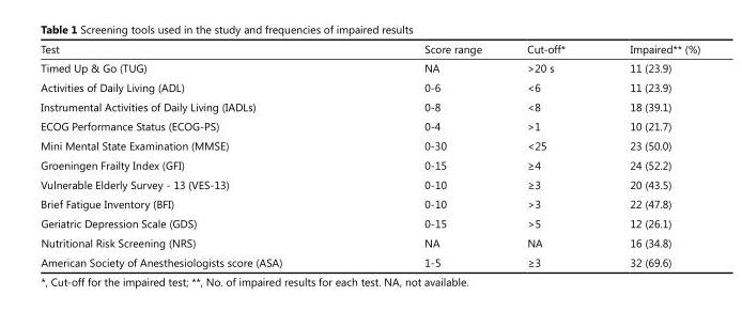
<table><thead><tr><td>Test</td><td>Score range</td><td>Cut-off*</td><td>Impaired** (%)</td></tr></thead><tbody><tr><td>Timed Up &amp; Go (TUG)</td><td>NA</td><td>&gt;20 s</td><td>11 (23.9)</td></tr><tr><td>Activities of Daily Living (ADL)</td><td>0-6</td><td>&lt;6</td><td>11 (23.9)</td></tr><tr><td>Instrumental Activities of Daily Living (IADLs)</td><td>0-8</td><td>&lt;8</td><td>18 (39.1)</td></tr><tr><td>ECOG Performance Status (ECOG-PS)</td><td>0-4</td><td>&gt;1</td><td>10 (21.7)</td></tr><tr><td>Mini Mental State Examination (MMSE)</td><td>0-30</td><td>&lt;25</td><td>23 (50.0)</td></tr><tr><td>Groeningen Frailty Index (GFI)</td><td>0-15</td><td>≥4</td><td>24 (52.2)</td></tr><tr><td>Vulnerable Elderly Survey - 13 (VES-13)</td><td>0-10</td><td>≥3</td><td>20 (43.5)</td></tr><tr><td>Brief Fatigue Inventory (BFI)</td><td>0-10</td><td>&gt;3</td><td>22 (47.8)</td></tr><tr><td>Geriatric Depression Scale (GDS)</td><td>0-15</td><td>&gt;5</td><td>12 (26.1)</td></tr><tr><td>Nutritional Risk Screening (NRS)</td><td>NA</td><td>NA</td><td>16 (34.8)</td></tr><tr><td>American Society of Anesthesiologists score (ASA)</td><td>1-5</td><td>≥3</td><td>32 (69.6)</td></tr></tbody></table>